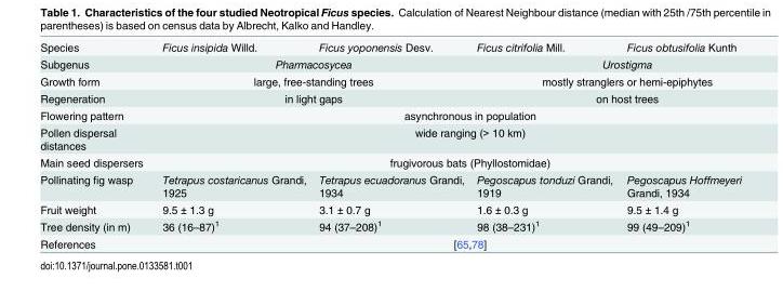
<table><tbody><tr><td>Species</td><td>Ficus insipida Willd.</td><td>Ficus yoponensis Desv.</td><td>Ficus citrifolia Mill.</td><td>Ficus obtusifolia Kunth</td></tr><tr><td>Subgenus</td><td colspan="2">Pharmacosycea</td><td colspan="2">Urostigma</td></tr><tr><td>Growth form</td><td colspan="2">large, free-standing trees</td><td colspan="2">mostly stranglers or hemi-epiphytes</td></tr><tr><td>Regeneration</td><td colspan="2">in light gaps</td><td colspan="2">on host trees</td></tr><tr><td>Flowering pattern</td><td colspan="4">asynchronous in population</td></tr><tr><td>Pollen dispersal distances</td><td colspan="4">wide ranging (&gt; 10 km)</td></tr><tr><td>Main seed dispersers</td><td colspan="4">frugivorous bats (Phyllostomidae)</td></tr><tr><td>Pollinating fig wasp</td><td>Tetrapus costaricanus Grandi, 1925</td><td>Tetrapus ecuadoranus Grandi, 1934</td><td>Pegoscapus tonduzi Grandi, 1919</td><td>Pegoscapus Hoffmeyeri Grandi, 1934</td></tr><tr><td>Fruit weight</td><td>9.5 ± 1.3 g</td><td>3.1 ± 0.7 g</td><td>1.6 ± 0.3 g</td><td>9.5 ± 1.4 g</td></tr><tr><td>Tree density (in m)</td><td>36 (16–87)<sup>1</sup></td><td>94 (37–208)<sup>1</sup></td><td>98 (38–231)<sup>1</sup></td><td>99 (49–209)<sup>1</sup></td></tr><tr><td>References</td><td colspan="4">[65,78]</td></tr></tbody></table>